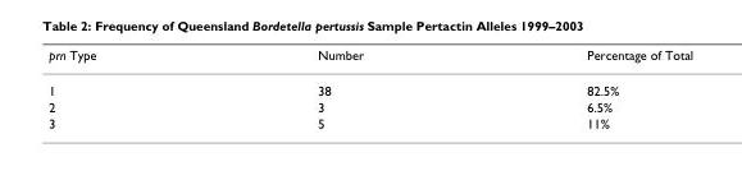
<table><thead><tr><td>prn Type</td><td>Number</td><td>Percentage of Total</td></tr></thead><tbody><tr><td>1</td><td>38</td><td>82.5%</td></tr><tr><td>2</td><td>3</td><td>6.5%</td></tr><tr><td>3</td><td>5</td><td>11%</td></tr></tbody></table>